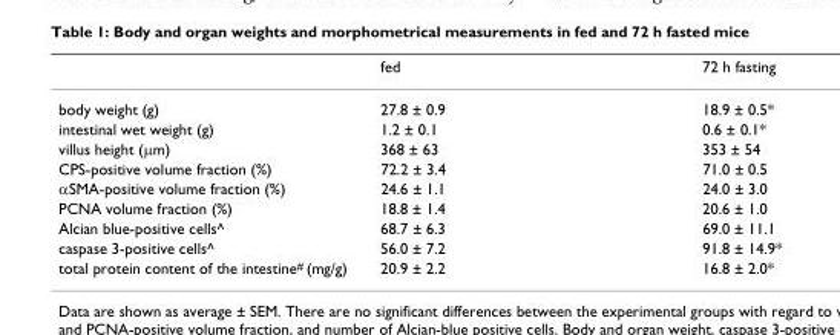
<table><thead><tr><td></td><td>fed</td><td>72 h fasting</td></tr></thead><tbody><tr><td>body weight (g)</td><td>27.8 ± 0.9</td><td>18.9 ± 0.5*</td></tr><tr><td>intestinal wet weight (g)</td><td>1.2 ± 0.1</td><td>0.6 ± 0.1*</td></tr><tr><td>villus height (µm)</td><td>368 ± 63</td><td>353 ± 54</td></tr><tr><td>CPS-positive volume fraction (%)</td><td>72.2 ± 3.4</td><td>71.0 ± 0.5</td></tr><tr><td>αSMA-positive volume fraction (%)</td><td>24.6 ± 1.1</td><td>24.0 ± 3.0</td></tr><tr><td>PCNA volume fraction (%)</td><td>18.8 ± 1.4</td><td>20.6 ± 1.0</td></tr><tr><td>Alcian blue-positive cells^</td><td>68.7 ± 6.3</td><td>69.0 ± 11.1</td></tr><tr><td>caspase 3-positive cells^</td><td>56.0 ± 7.2</td><td>91.8 ± 14.9*</td></tr><tr><td>total protein content of the intestine<sup>#</sup> (mg/g)</td><td>20.9 ± 2.2</td><td>16.8 ± 2.0*</td></tr></tbody></table>